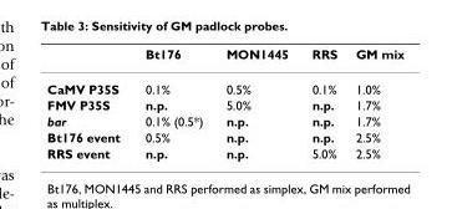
<table><thead><tr><td></td><td>Bt176</td><td>MON1445</td><td>RRS</td><td>GM mix</td></tr></thead><tbody><tr><td>CaMV P35S</td><td>0.1%</td><td>0.5%</td><td>0.1%</td><td>1.0%</td></tr><tr><td>FMV P35S</td><td>n.p.</td><td>5.0%</td><td>n.p.</td><td>1.7%</td></tr><tr><td>bar</td><td>0.1% (0.5*)</td><td>n.p.</td><td>n.p.</td><td>1.7%</td></tr><tr><td>Bt176 event</td><td>0.5%</td><td>n.p.</td><td>n.p.</td><td>2.5%</td></tr><tr><td>RRS event</td><td>n.p.</td><td>n.p.</td><td>5.0%</td><td>2.5%</td></tr></tbody></table>